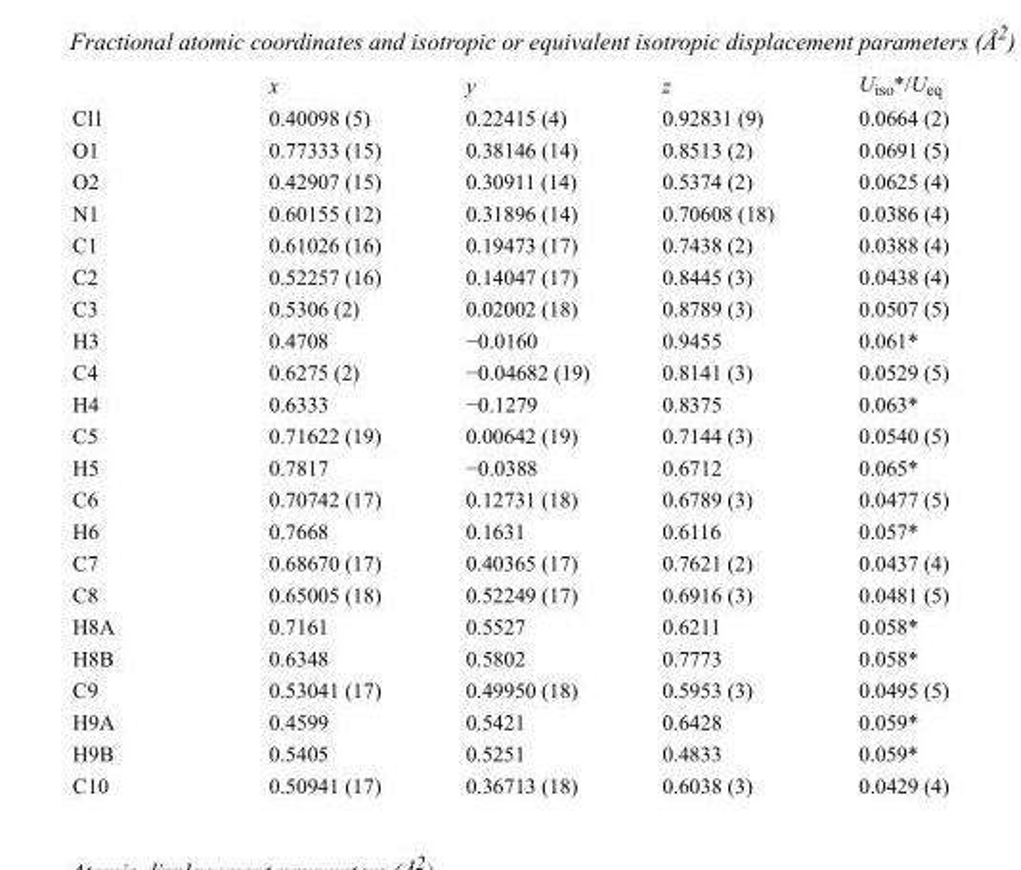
<table><thead><tr><td></td><td>x</td><td>y</td><td>z</td><td>U<sub>iso</sub>*/U<sub>eq</sub></td></tr></thead><tbody><tr><td>Cl1</td><td>0.40098 (5)</td><td>0.22415 (4)</td><td>0.92831 (9)</td><td>0.0664 (2)</td></tr><tr><td>O1</td><td>0.77333 (15)</td><td>0.38146 (14)</td><td>0.8513 (2)</td><td>0.0691 (5)</td></tr><tr><td>O2</td><td>0.42907 (15)</td><td>0.30911 (14)</td><td>0.5374 (2)</td><td>0.0625 (4)</td></tr><tr><td>N1</td><td>0.60155 (12)</td><td>0.31896 (14)</td><td>0.70608 (18)</td><td>0.0386 (4)</td></tr><tr><td>C1</td><td>0.61026 (16)</td><td>0.19473 (17)</td><td>0.7438 (2)</td><td>0.0388 (4)</td></tr><tr><td>C2</td><td>0.52257 (16)</td><td>0.14047 (17)</td><td>0.8445 (3)</td><td>0.0438 (4)</td></tr><tr><td>C3</td><td>0.5306 (2)</td><td>0.02002 (18)</td><td>0.8789 (3)</td><td>0.0507 (5)</td></tr><tr><td>H3</td><td>0.4708</td><td>−0.0160</td><td>0.9455</td><td>0.061*</td></tr><tr><td>C4</td><td>0.6275 (2)</td><td>−0.04682 (19)</td><td>0.8141 (3)</td><td>0.0529 (5)</td></tr><tr><td>H4</td><td>0.6333</td><td>−0.1279</td><td>0.8375</td><td>0.063*</td></tr><tr><td>C5</td><td>0.71622 (19)</td><td>0.00642 (19)</td><td>0.7144 (3)</td><td>0.0540 (5)</td></tr><tr><td>H5</td><td>0.7817</td><td>−0.0388</td><td>0.6712</td><td>0.065*</td></tr><tr><td>C6</td><td>0.70742 (17)</td><td>0.12731 (18)</td><td>0.6789 (3)</td><td>0.0477 (5)</td></tr><tr><td>H6</td><td>0.7668</td><td>0.1631</td><td>0.6116</td><td>0.057*</td></tr><tr><td>C7</td><td>0.68670 (17)</td><td>0.40365 (17)</td><td>0.7621 (2)</td><td>0.0437 (4)</td></tr><tr><td>C8</td><td>0.65005 (18)</td><td>0.52249 (17)</td><td>0.6916 (3)</td><td>0.0481 (5)</td></tr><tr><td>H8A</td><td>0.7161</td><td>0.5527</td><td>0.6211</td><td>0.058*</td></tr><tr><td>H8B</td><td>0.6348</td><td>0.5802</td><td>0.7773</td><td>0.058*</td></tr><tr><td>C9</td><td>0.53041 (17)</td><td>0.49950 (18)</td><td>0.5953 (3)</td><td>0.0495 (5)</td></tr><tr><td>H9A</td><td>0.4599</td><td>0.5421</td><td>0.6428</td><td>0.059*</td></tr><tr><td>H9B</td><td>0.5405</td><td>0.5251</td><td>0.4833</td><td>0.059*</td></tr><tr><td>C10</td><td>0.50941 (17)</td><td>0.36713 (18)</td><td>0.6038 (3)</td><td>0.0429 (4)</td></tr></tbody></table>